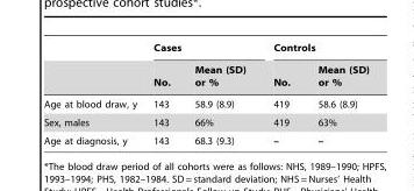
<table><thead><tr><td rowspan="2"></td><td colspan="2">Cases</td><td colspan="2">Controls</td></tr><tr><td>No.</td><td>Mean (SD) or %</td><td>No.</td><td>Mean (SD) or %</td></tr></thead><tbody><tr><td>Age at blood draw, y</td><td>143</td><td>58.9 (8.9)</td><td>419</td><td>58.6 (8.9)</td></tr><tr><td>Sex, males</td><td>143</td><td>66%</td><td>419</td><td>63%</td></tr><tr><td>Age at diagnosis, y</td><td>143</td><td>68.3 (9.3)</td><td>–</td><td>–</td></tr></tbody></table>